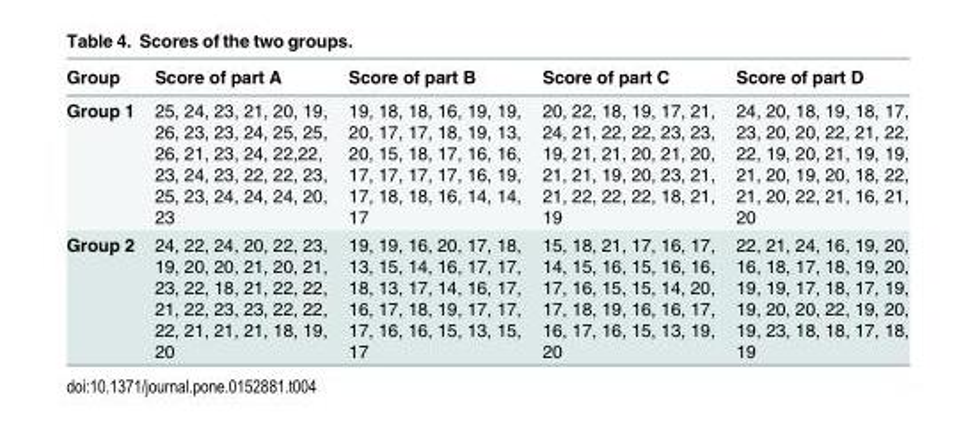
<table><thead><tr><td>Group</td><td>Score of part A</td><td>Score of part B</td><td>Score of part C</td><td>Score of part D</td></tr></thead><tbody><tr><td>Group 1</td><td>25, 24, 23, 21, 20, 19, 26, 23, 23, 24, 25, 25, 26, 21, 23, 24, 22,22, 23, 24, 23, 22, 22, 23, 25, 23, 24, 24, 24, 20, 23</td><td>19, 18, 18, 16, 19, 19, 20, 17, 17, 18, 19, 13, 20, 15, 18, 17, 16, 16, 17, 17, 17, 17, 16, 19, 17, 18, 18, 16, 14, 14, 17</td><td>20, 22, 18, 19, 17, 21, 24, 21, 22, 22, 23, 23, 19, 21, 21, 20, 21, 20, 21, 21, 19, 20, 23, 21, 21, 22, 22, 22, 18, 21, 19</td><td>24, 20, 18, 19, 18, 17, 23, 20, 20, 22, 21, 22, 22, 19, 20, 21, 19, 19, 21, 20, 19, 20, 18, 22, 21, 20, 22, 21, 16, 21, 20</td></tr><tr><td>Group 2</td><td>24, 22, 24, 20, 22, 23, 19, 20, 20, 21, 20, 21, 23, 22, 18, 21, 22, 22, 21, 22, 23, 23, 22, 22, 22, 21, 21, 21, 18, 19, 20</td><td>19, 19, 16, 20, 17, 18, 13, 15, 14, 16, 17, 17, 18, 13, 17, 14, 16, 17, 16, 17, 18, 19, 17, 17, 17, 16, 16, 15, 13, 15, 17</td><td>15, 18, 21, 17, 16, 17, 14, 15, 16, 15, 16, 16, 17, 16, 15, 15, 14, 20, 17, 18, 19, 16, 16, 17, 16, 17, 16, 15, 13, 19, 20</td><td>22, 21, 24, 16, 19, 20, 16, 18, 17, 18, 19, 20, 19, 19, 17, 18, 17, 19, 19, 20, 20, 22, 19, 20, 19, 23, 18, 18, 17, 18, 19</td></tr></tbody></table>